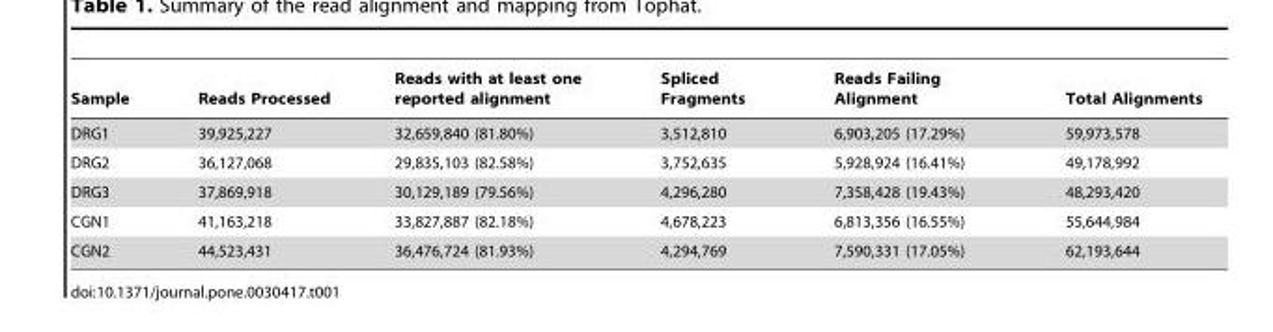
<table><thead><tr><td>Sample</td><td>Reads Processed</td><td>Reads with at least one reported alignment</td><td>Spliced Fragments</td><td>Reads Failing Alignment</td><td>Total Alignments</td></tr></thead><tbody><tr><td>DRG1</td><td>39,925,227</td><td>32,659,840 (81.80%)</td><td>3,512,810</td><td>6,903,205 (17.29%)</td><td>59,973,578</td></tr><tr><td>DRG2</td><td>36,127,068</td><td>29,835,103 (82.58%)</td><td>3,752,635</td><td>5,928,924 (16.41%)</td><td>49,178,992</td></tr><tr><td>DRG3</td><td>37,869,918</td><td>30,129,189 (79.56%)</td><td>4,296,280</td><td>7,358,428 (19.43%)</td><td>48,293,420</td></tr><tr><td>CGN1</td><td>41,163,218</td><td>33,827,887 (82.18%)</td><td>4,678,223</td><td>6,813,356 (16.55%)</td><td>55,644,984</td></tr><tr><td>CGN2</td><td>44,523,431</td><td>36,476,724 (81.93%)</td><td>4,294,769</td><td>7,590,331 (17.05%)</td><td>62,193,644</td></tr></tbody></table>